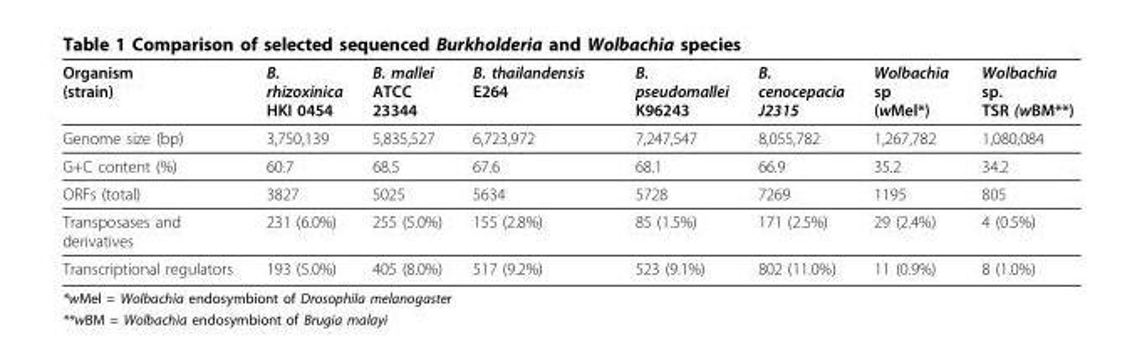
<table><thead><tr><td>Organism (strain)</td><td>B. rhizoxinica HKI 0454</td><td>B. mallei ATCC 23344</td><td>B. thailandensis E264</td><td>B. pseudomallei K96243</td><td>B. cenocepacia J2315</td><td>Wolbachia sp (wMel*)</td><td>Wolbachia sp. TSR (wBM**)</td></tr></thead><tbody><tr><td>Genome size (bp)</td><td>3,750,139</td><td>5,835,527</td><td>6,723,972</td><td>7,247,547</td><td>8,055,782</td><td>1,267,782</td><td>1,080,084</td></tr><tr><td>G+C content (%)</td><td>60.7</td><td>68.5</td><td>67.6</td><td>68.1</td><td>66.9</td><td>35.2</td><td>34.2</td></tr><tr><td>ORFs (total)</td><td>3827</td><td>5025</td><td>5634</td><td>5728</td><td>7269</td><td>1195</td><td>805</td></tr><tr><td>Transposases and derivatives</td><td>231 (6.0%)</td><td>255 (5.0%)</td><td>155 (2.8%)</td><td>85 (1.5%)</td><td>171 (2.5%)</td><td>29 (2.4%)</td><td>4 (0.5%)</td></tr><tr><td>Transcriptional regulators</td><td>193 (5.0%)</td><td>405 (8.0%)</td><td>517 (9.2%)</td><td>523 (9.1%)</td><td>802 (11.0%)</td><td>11 (0.9%)</td><td>8 (1.0%)</td></tr></tbody></table>